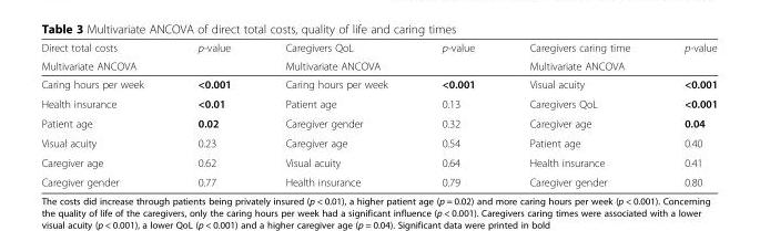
<table><thead><tr><td rowspan="2">Direct total costs Multivariate ANCOVA</td><td rowspan="2">p-value</td><td rowspan="2">Caregivers QoL Multivariate ANCOVA</td><td rowspan="2">p-value</td><td rowspan="2">Caregivers caring time Multivariate ANCOVA</td><td rowspan="2">p-value</td></tr><tr></tr></thead><tbody><tr><td>Caring hours per week</td><td>&lt;0.001</td><td>Caring hours per week</td><td>&lt;0.001</td><td>Visual acuity</td><td>&lt;0.001</td></tr><tr><td>Health insurance</td><td>&lt;0.01</td><td>Patient age</td><td>0.13</td><td>Caregivers QoL</td><td>&lt;0.001</td></tr><tr><td>Patient age</td><td>0.02</td><td>Caregiver gender</td><td>0.32</td><td>Caregiver age</td><td>0.04</td></tr><tr><td>Visual acuity</td><td>0.23</td><td>Caregiver age</td><td>0.54</td><td>Patient age</td><td>0.40</td></tr><tr><td>Caregiver age</td><td>0.62</td><td>Visual acuity</td><td>0.64</td><td>Health insurance</td><td>0.41</td></tr><tr><td>Caregiver gender</td><td>0.77</td><td>Health insurance</td><td>0.79</td><td>Caregiver gender</td><td>0.80</td></tr></tbody></table>